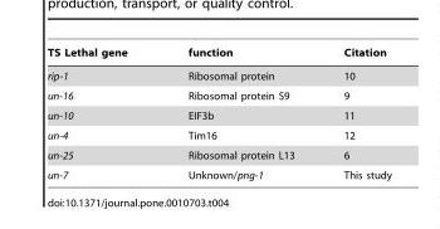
<table><thead><tr><td>TS Lethal gene</td><td>function</td><td>Citation</td></tr></thead><tbody><tr><td>rip-1</td><td>Ribosomal protein</td><td>10</td></tr><tr><td>un-16</td><td>Ribosomal protein S9</td><td>9</td></tr><tr><td>un-10</td><td>EIF3b</td><td>11</td></tr><tr><td>un-4</td><td>Tim16</td><td>12</td></tr><tr><td>un-25</td><td>Ribosomal protein L13</td><td>6</td></tr><tr><td>un-7</td><td>Unknown/png-1</td><td>This study</td></tr></tbody></table>